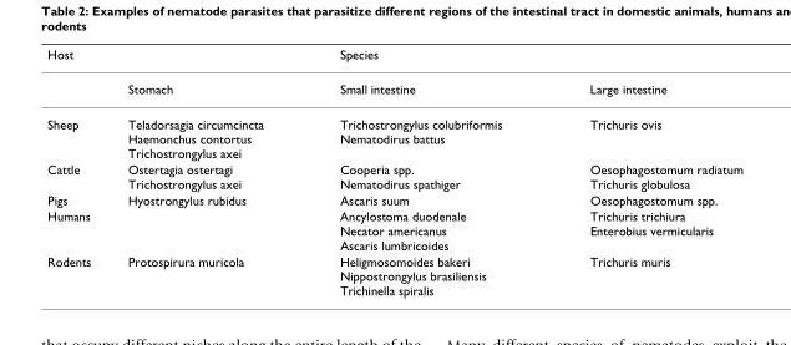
<table><thead><tr><td>Host</td><td></td><td>Species</td><td></td></tr></thead><tbody><tr><td></td><td>Stomach</td><td>Small intestine</td><td>Large intestine</td></tr><tr><td>Sheep</td><td>Teladorsagia circumcincta Haemonchus contortus Trichostrongylus axei</td><td>Trichostrongylus colubriformis Nematodirus battus</td><td>Trichuris ovis</td></tr><tr><td>Cattle</td><td>Ostertagia ostertagi Trichostrongylus axei</td><td>Cooperia spp. Nematodirus spathiger</td><td>Oesophagostomum radiatum Trichuris globulosa</td></tr><tr><td>Pigs</td><td>Hyostrongylus rubidus</td><td>Ascaris suum</td><td>Oesophagostomum spp.</td></tr><tr><td>Humans</td><td></td><td>Ancylostoma duodenale Necator americanus Ascaris lumbricoides</td><td>Trichuris trichiura Enterobius vermicularis</td></tr><tr><td>Rodents</td><td>Protospirura muricola</td><td>Heligmosomoides bakeri Nippostrongylus brasiliensis Trichinella spiralis</td><td>Trichuris muris</td></tr></tbody></table>